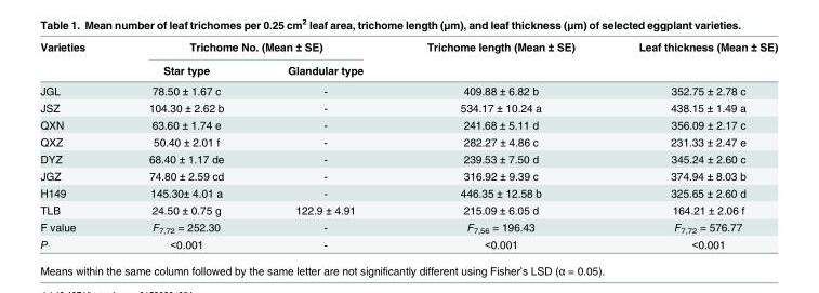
<table><thead><tr><td rowspan="2">Varieties</td><td colspan="2">Trichome No. (Mean ± SE)</td><td rowspan="2">Trichome length (Mean ± SE)</td><td rowspan="2">Leaf thickness (Mean ± SE)</td></tr><tr><td>Star type</td><td>Glandular type</td></tr></thead><tbody><tr><td>JGL</td><td>78.50 ± 1.67 c</td><td>-</td><td>409.88 ± 6.82 b</td><td>352.75 ± 2.78 c</td></tr><tr><td>JSZ</td><td>104.30 ± 2.62 b</td><td>-</td><td>534.17 ± 10.24 a</td><td>438.15 ± 1.49 a</td></tr><tr><td>QXN</td><td>63.60 ± 1.74 e</td><td>-</td><td>241.68 ± 5.11 d</td><td>356.09 ± 2.17 c</td></tr><tr><td>QXZ</td><td>50.40 ± 2.01 f</td><td>-</td><td>282.27 ± 4.86 c</td><td>231.33 ± 2.47 e</td></tr><tr><td>DYZ</td><td>68.40 ± 1.17 de</td><td>-</td><td>239.53 ± 7.50 d</td><td>345.24 ± 2.60 c</td></tr><tr><td>JGZ</td><td>74.80 ± 2.59 cd</td><td>-</td><td>316.92 ± 9.39 c</td><td>374.94 ± 8.03 b</td></tr><tr><td>H149</td><td>145.30± 4.01 a</td><td>-</td><td>446.35 ± 12.58 b</td><td>325.65 ± 2.60 d</td></tr><tr><td>TLB</td><td>24.50 ± 0.75 g</td><td>122.9 ± 4.91</td><td>215.09 ± 6.05 d</td><td>164.21 ± 2.06 f</td></tr><tr><td>F value</td><td>F<sub>7,72</sub> = 252.30</td><td>-</td><td>F<sub>7,56</sub> = 196.43</td><td>F<sub>7,72</sub> = 576.77</td></tr><tr><td>P</td><td>&lt;0.001</td><td>-</td><td>&lt;0.001</td><td>&lt;0.001</td></tr></tbody></table>